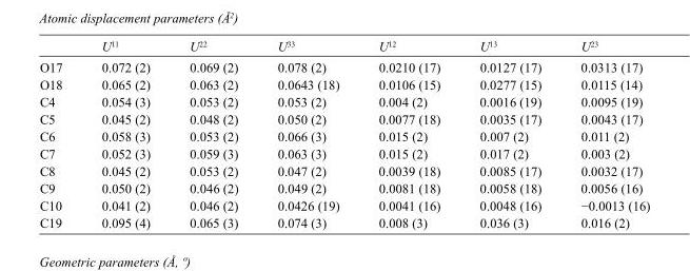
<table><thead><tr><td></td><td>U<sup>11</sup></td><td>U<sup>22</sup></td><td>U<sup>33</sup></td><td>U<sup>12</sup></td><td>U<sup>13</sup></td><td>U<sup>23</sup></td></tr></thead><tbody><tr><td>O17</td><td>0.072 (2)</td><td>0.069 (2)</td><td>0.078 (2)</td><td>0.0210 (17)</td><td>0.0127 (17)</td><td>0.0313 (17)</td></tr><tr><td>O18</td><td>0.065 (2)</td><td>0.063 (2)</td><td>0.0643 (18)</td><td>0.0106 (15)</td><td>0.0277 (15)</td><td>0.0115 (14)</td></tr><tr><td>C4</td><td>0.054 (3)</td><td>0.053 (2)</td><td>0.053 (2)</td><td>0.004 (2)</td><td>0.0016 (19)</td><td>0.0095 (19)</td></tr><tr><td>C5</td><td>0.045 (2)</td><td>0.048 (2)</td><td>0.050 (2)</td><td>0.0077 (18)</td><td>0.0035 (17)</td><td>0.0043 (17)</td></tr><tr><td>C6</td><td>0.058 (3)</td><td>0.053 (2)</td><td>0.066 (3)</td><td>0.015 (2)</td><td>0.007 (2)</td><td>0.011 (2)</td></tr><tr><td>C7</td><td>0.052 (3)</td><td>0.059 (3)</td><td>0.063 (3)</td><td>0.015 (2)</td><td>0.017 (2)</td><td>0.003 (2)</td></tr><tr><td>C8</td><td>0.045 (2)</td><td>0.053 (2)</td><td>0.047 (2)</td><td>0.0039 (18)</td><td>0.0085 (17)</td><td>0.0032 (17)</td></tr><tr><td>C9</td><td>0.050 (2)</td><td>0.046 (2)</td><td>0.049 (2)</td><td>0.0081 (18)</td><td>0.0058 (18)</td><td>0.0056 (16)</td></tr><tr><td>C10</td><td>0.041 (2)</td><td>0.046 (2)</td><td>0.0426 (19)</td><td>0.0041 (16)</td><td>0.0048 (16)</td><td>−0.0013 (16)</td></tr><tr><td>C19</td><td>0.095 (4)</td><td>0.065 (3)</td><td>0.074 (3)</td><td>0.008 (3)</td><td>0.036 (3)</td><td>0.016 (2)</td></tr></tbody></table>